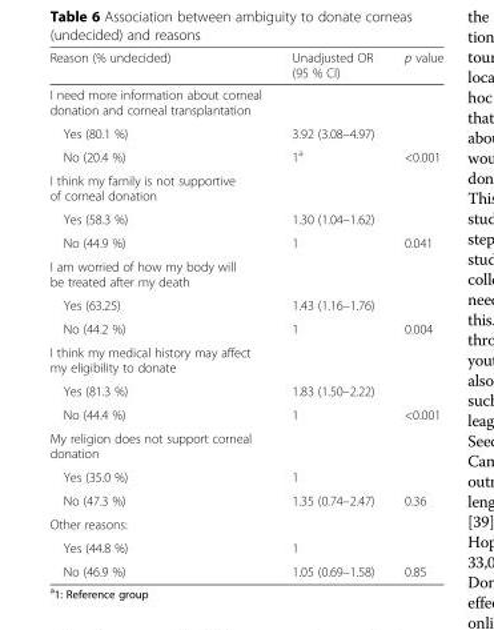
<table><thead><tr><td>Reason (% undecided)</td><td>Unadjusted OR (95 % CI)</td><td>p value</td></tr></thead><tbody><tr><td colspan="3">I need more information about corneal donation and corneal transplantation</td></tr><tr><td>Yes (80.1 %)</td><td>3.92 (3.08–4.97)</td><td></td></tr><tr><td>No (20.4 %)</td><td>1<sup>a</sup></td><td>&lt;0.001</td></tr><tr><td colspan="3">I think my family is not supportive of corneal donation</td></tr><tr><td>Yes (58.3 %)</td><td>1.30 (1.04–1.62)</td><td></td></tr><tr><td>No (44.9 %)</td><td>1</td><td>0.041</td></tr><tr><td colspan="3">I am worried of how my body will be treated after my death</td></tr><tr><td>Yes (63.25)</td><td>1.43 (1.16–1.76)</td><td></td></tr><tr><td>No (44.2 %)</td><td>1</td><td>0.004</td></tr><tr><td colspan="3">I think my medical history may affect my eligibility to donate</td></tr><tr><td>Yes (81.3 %)</td><td>1.83 (1.50–2.22)</td><td></td></tr><tr><td>No (44.4 %)</td><td>1</td><td>&lt;0.001</td></tr><tr><td colspan="3">My religion does not support corneal donation</td></tr><tr><td>Yes (35.0 %)</td><td>1</td><td></td></tr><tr><td>No (47.3 %)</td><td>1.35 (0.74–2.47)</td><td>0.36</td></tr><tr><td colspan="3">Other reasons:</td></tr><tr><td>Yes (44.8 %)</td><td>1</td><td></td></tr><tr><td>No (46.9 %)</td><td>1.05 (0.69–1.58)</td><td>0.85</td></tr></tbody></table>